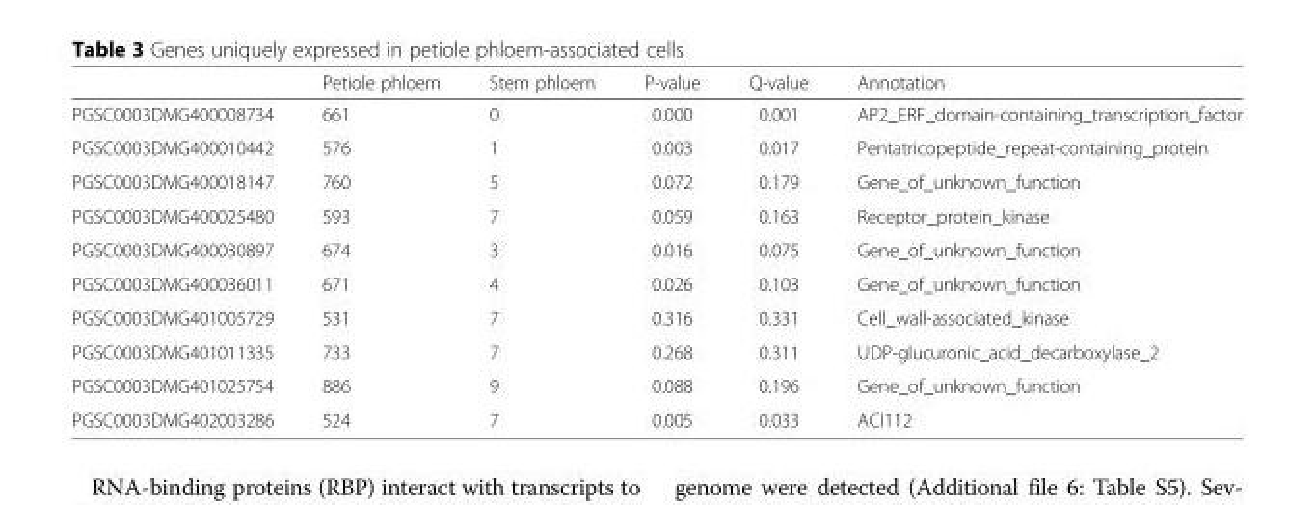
<table><thead><tr><td></td><td>Petiole phloem</td><td>Stem phloem</td><td>P-value</td><td>Q-value</td><td>Annotation</td></tr></thead><tbody><tr><td>PGSC0003DMG400008734</td><td>661</td><td>0</td><td>0.000</td><td>0.001</td><td>AP2_ERF_domain-containing_transcription_factor</td></tr><tr><td>PGSC0003DMG400010442</td><td>576</td><td>1</td><td>0.003</td><td>0.017</td><td>Pentatricopeptide_repeat-containing_protein</td></tr><tr><td>PGSC0003DMG400018147</td><td>760</td><td>5</td><td>0.072</td><td>0.179</td><td>Gene_of_unknown_function</td></tr><tr><td>PGSC0003DMG400025480</td><td>593</td><td>7</td><td>0.059</td><td>0.163</td><td>Receptor_protein_kinase</td></tr><tr><td>PGSC0003DMG400030897</td><td>674</td><td>3</td><td>0.016</td><td>0.075</td><td>Gene_of_unknown_function</td></tr><tr><td>PGSC0003DMG400036011</td><td>671</td><td>4</td><td>0.026</td><td>0.103</td><td>Gene_of_unknown_function</td></tr><tr><td>PGSC0003DMG401005729</td><td>531</td><td>7</td><td>0.316</td><td>0.331</td><td>Cell_wall-associated_kinase</td></tr><tr><td>PGSC0003DMG401011335</td><td>733</td><td>7</td><td>0.268</td><td>0.311</td><td>UDP-glucuronic_acid_decarboxylase_2</td></tr><tr><td>PGSC0003DMG401025754</td><td>886</td><td>9</td><td>0.088</td><td>0.196</td><td>Gene_of_unknown_function</td></tr><tr><td>PGSC0003DMG402003286</td><td>524</td><td>7</td><td>0.005</td><td>0.033</td><td>ACI112</td></tr></tbody></table>